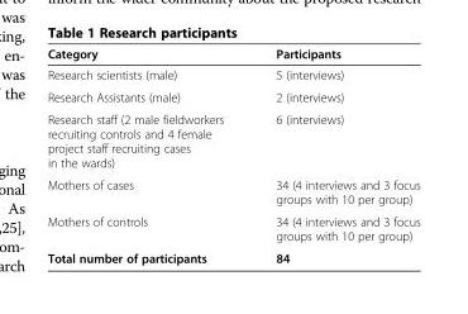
<table><thead><tr><td>Category</td><td>Participants</td></tr></thead><tbody><tr><td>Research scientists (male)</td><td>5 (interviews)</td></tr><tr><td>Research Assistants (male)</td><td>2 (interviews)</td></tr><tr><td>Research staff (2 male fieldworkers recruiting controls and 4 female project staff recruiting cases in the wards)</td><td>6 (interviews)</td></tr><tr><td>Mothers of cases</td><td>34 (4 interviews and 3 focus groups with 10 per group)</td></tr><tr><td>Mothers of controls</td><td>34 (4 interviews and 3 focus groups with 10 per group)</td></tr><tr><td>Total number of participants</td><td>84</td></tr></tbody></table>